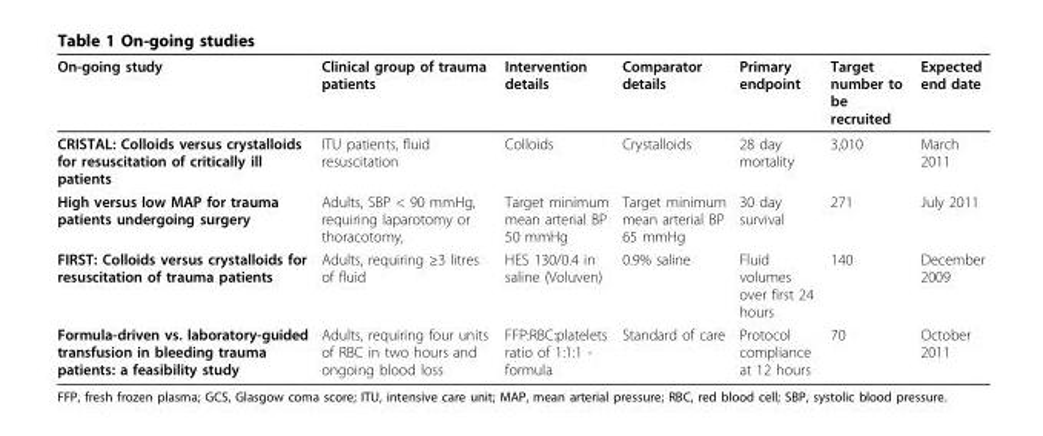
<table><thead><tr><td>On-going study</td><td>Clinical group of trauma patients</td><td>Intervention details</td><td>Comparator details</td><td>Primary endpoint</td><td>Target number to be recruited</td><td>Expected end date</td></tr></thead><tbody><tr><td>CRISTAL: Colloids versus crystalloids for resuscitation of critically ill patients</td><td>ITU patients, fluid resuscitation</td><td>Colloids</td><td>Crystalloids</td><td>28 day mortality</td><td>3,010</td><td>March 2011</td></tr><tr><td>High versus low MAP for trauma patients undergoing surgery</td><td>Adults, SBP &lt; 90 mmHg, requiring laparotomy or thoracotomy,</td><td>Target minimum mean arterial BP 50 mmHg</td><td>Target minimum mean arterial BP 65 mmHg</td><td>30 day survival</td><td>271</td><td>July 2011</td></tr><tr><td>FIRST: Colloids versus crystalloids for resuscitation of trauma patients</td><td>Adults, requiring ≥3 litres of fluid</td><td>HES 130/0.4 in saline (Voluven)</td><td>0.9% saline</td><td>Fluid volumes over first 24 hours</td><td>140</td><td>December 2009</td></tr><tr><td>Formula-driven vs. laboratory-guided transfusion in bleeding trauma patients: a feasibility study</td><td>Adults, requiring four units of RBC in two hours and ongoing blood loss</td><td>FFP:RBC:platelets ratio of 1:1:1 - formula</td><td>Standard of care</td><td>Protocol compliance at 12 hours</td><td>70</td><td>October 2011</td></tr></tbody></table>